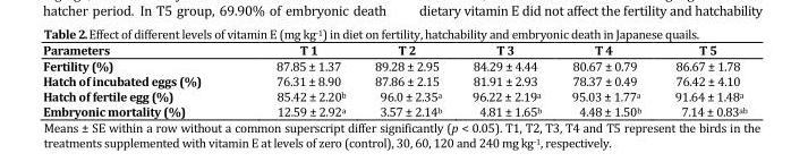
<table><thead><tr><td>Parameters</td><td>T 1</td><td>T 2</td><td>T 3</td><td>T 4</td><td>T 5</td></tr></thead><tbody><tr><td>Fertility (%)</td><td>87.85 ± 1.37</td><td>89.28 ± 2.95</td><td>84.29 ± 4.44</td><td>80.67 ± 0.79</td><td>86.67 ± 1.78</td></tr><tr><td>Hatch of incubated eggs (%)</td><td>76.31 ± 8.90</td><td>87.86 ± 2.15</td><td>81.91 ± 2.93</td><td>78.37 ± 0.49</td><td>76.42 ± 4.10</td></tr><tr><td>Hatch of fertile egg (%)</td><td>85.42 ± 2.20<sup>b</sup></td><td>96.0 ± 2.35<sup>a</sup></td><td>96.22 ± 2.19<sup>a</sup></td><td>95.03 ± 1.77<sup>a</sup></td><td>91.64 ± 1.48<sup>a</sup></td></tr><tr><td>Embryonic mortality (%)</td><td>12.59 ± 2.92<sup>a</sup></td><td>3.57 ± 2.14<sup>b</sup></td><td>4.81 ± 1.65<sup>b</sup></td><td>4.48 ± 1.50<sup>b</sup></td><td>7.14 ± 0.83<sup>ab</sup></td></tr></tbody></table>